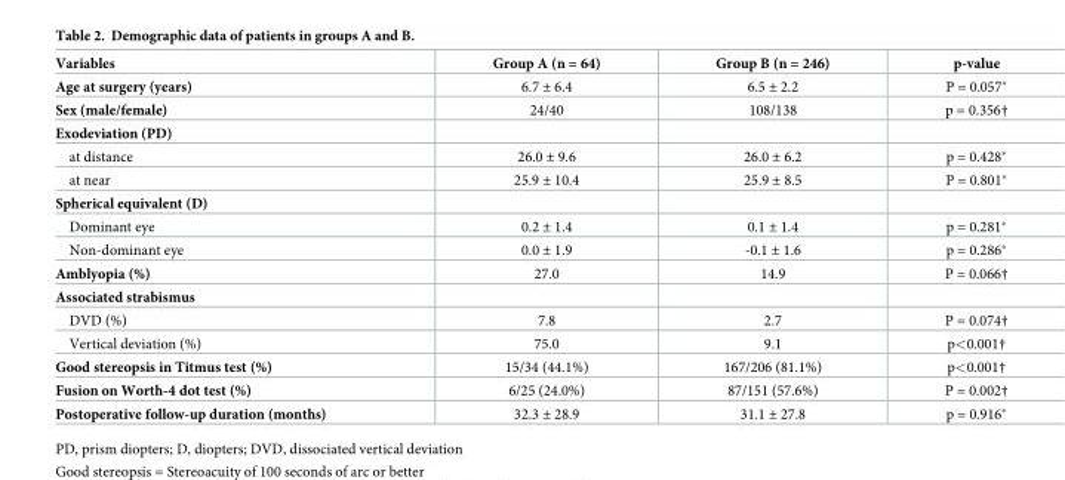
<table><thead><tr><td>Variables</td><td>Group A (n = 64)</td><td>Group B (n = 246)</td><td>p-value</td></tr></thead><tbody><tr><td>Age at surgery (years)</td><td>6.7 ± 6.4</td><td>6.5 ± 2.2</td><td>P = 0.057*</td></tr><tr><td>Sex (male/female)</td><td>24/40</td><td>108/138</td><td>p = 0.356†</td></tr><tr><td colspan="4">Exodeviation (PD)</td></tr><tr><td>at distance</td><td>26.0 ± 9.6</td><td>26.0 ± 6.2</td><td>p = 0.428*</td></tr><tr><td>at near</td><td>25.9 ± 10.4</td><td>25.9 ± 8.5</td><td>P = 0.801*</td></tr><tr><td colspan="4">Spherical equivalent (D)</td></tr><tr><td>Dominant eye</td><td>0.2 ± 1.4</td><td>0.1 ± 1.4</td><td>p = 0.281*</td></tr><tr><td>Non-dominant eye</td><td>0.0 ± 1.9</td><td>-0.1 ± 1.6</td><td>p = 0.286*</td></tr><tr><td>Amblyopia (%)</td><td>27.0</td><td>14.9</td><td>P = 0.066†</td></tr><tr><td colspan="4">Associated strabismus</td></tr><tr><td>DVD (%)</td><td>7.8</td><td>2.7</td><td>P = 0.074†</td></tr><tr><td>Vertical deviation (%)</td><td>75.0</td><td>9.1</td><td>p&lt;0.001†</td></tr><tr><td>Good stereopsis in Titmus test (%)</td><td>15/34 (44.1%)</td><td>167/206 (81.1%)</td><td>p&lt;0.001†</td></tr><tr><td>Fusion on Worth-4 dot test (%)</td><td>6/25 (24.0%)</td><td>87/151 (57.6%)</td><td>P = 0.002†</td></tr><tr><td>Postoperative follow-up duration (months)</td><td>32.3 ± 28.9</td><td>31.1 ± 27.8</td><td>p = 0.916*</td></tr></tbody></table>